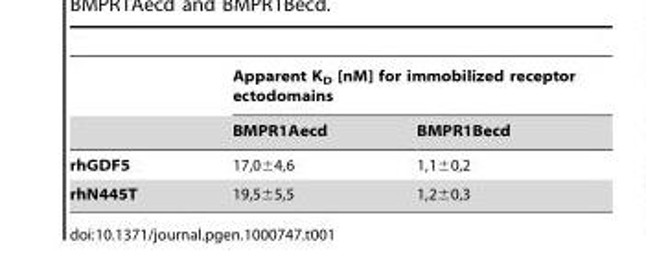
<table><thead><tr><td rowspan="2"></td><td colspan="2">Apparent K<sub>D</sub> [nM] for immobilized receptor ectodomains</td></tr><tr><td>BMPR1Aecd</td><td>BMPR1Becd</td></tr></thead><tbody><tr><td>rhGDF5</td><td>17,0±4,6</td><td>1,1±0,2</td></tr><tr><td>rhN445T</td><td>19,5±5,5</td><td>1,2±0,3</td></tr></tbody></table>